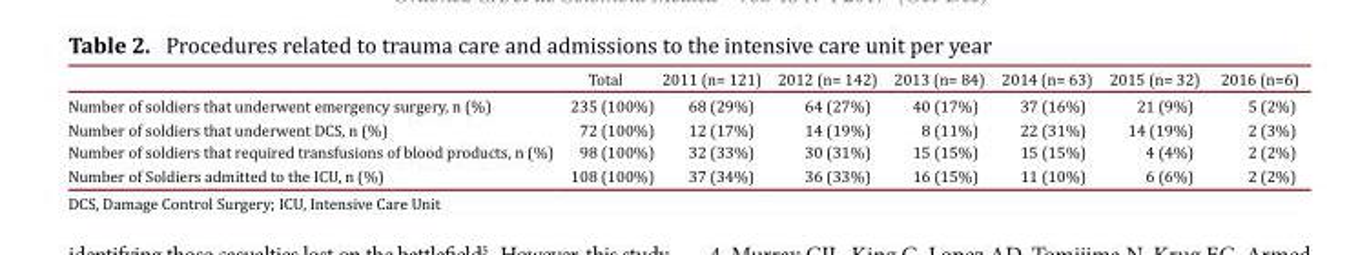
<table><thead><tr><td></td><td>Total</td><td>2011 (n= 121)</td><td>2012 (n= 142)</td><td>2013 (n= 84)</td><td>2014 (n= 63)</td><td>2015 (n= 32)</td><td>2016 (n=6)</td></tr></thead><tbody><tr><td>Number of soldiers that underwent emergency surgery, n (%)</td><td>235 (100%)</td><td>68 (29%)</td><td>64 (27%)</td><td>40 (17%)</td><td>37 (16%)</td><td>21 (9%)</td><td>5 (2%)</td></tr><tr><td>Number of soldiers that underwent DCS, n (%)</td><td>72 (100%)</td><td>12 (17%)</td><td>14 (19%)</td><td>8 (11%)</td><td>22 (31%)</td><td>14 (19%)</td><td>2 (3%)</td></tr><tr><td>Number of soldiers that required transfusions of blood products, n (%)</td><td>98 (100%)</td><td>32 (33%)</td><td>30 (31%)</td><td>15 (15%)</td><td>15 (15%)</td><td>4 (4%)</td><td>2 (2%)</td></tr><tr><td>Number of Soldiers admitted to the ICU, n (%)</td><td>108 (100%)</td><td>37 (34%)</td><td>36 (33%)</td><td>16 (15%)</td><td>11 (10%)</td><td>6 (6%)</td><td>2 (2%)</td></tr></tbody></table>